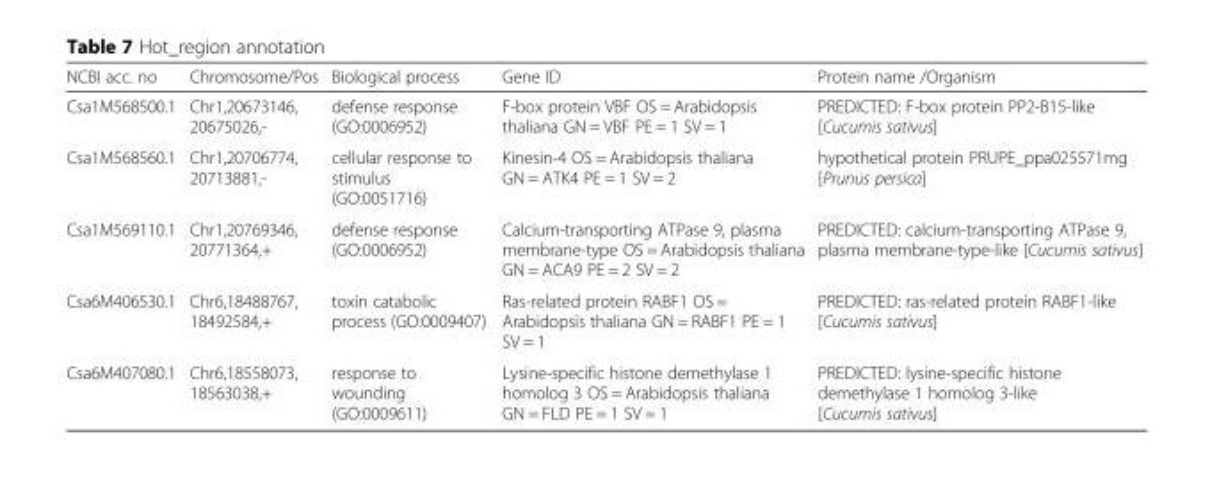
<table><thead><tr><td>NCBI acc. no</td><td>Chromosome/Pos</td><td>Biological process</td><td>Gene ID</td><td>Protein name /Organism</td></tr></thead><tbody><tr><td>Csa1M568500.1</td><td>Chr1,20673146, 20675026,-</td><td>defense response (GO:0006952)</td><td>F-box protein VBF OS = Arabidopsis thaliana GN = VBF PE = 1 SV = 1</td><td>PREDICTED: F-box protein PP2-B15-like [Cucumis sativus]</td></tr><tr><td>Csa1M568560.1</td><td>Chr1,20706774, 20713881,-</td><td>cellular response to stimulus (GO:0051716)</td><td>Kinesin-4 OS = Arabidopsis thaliana GN = ATK4 PE = 1 SV = 2</td><td>hypothetical protein PRUPE_ppa025571mg [Prunus persica]</td></tr><tr><td>Csa1M569110.1</td><td>Chr1,20769346, 20771364,+</td><td>defense response (GO:0006952)</td><td>Calcium-transporting ATPase 9, plasma membrane-type OS = Arabidopsis thaliana GN = ACA9 PE = 2 SV = 2</td><td>PREDICTED: calcium-transporting ATPase 9, plasma membrane-type-like [Cucumis sativus]</td></tr><tr><td>Csa6M406530.1</td><td>Chr6,18488767, 18492584,+</td><td>toxin catabolic process (GO:0009407)</td><td>Ras-related protein RABF1 OS = Arabidopsis thaliana GN = RABF1 PE = 1 SV = 1</td><td>PREDICTED: ras-related protein RABF1-like [Cucumis sativus]</td></tr><tr><td>Csa6M407080.1</td><td>Chr6,18558073, 18563038,+</td><td>response to wounding (GO:0009611)</td><td>Lysine-specific histone demethylase 1 homolog 3 OS = Arabidopsis thaliana GN = FLD PE = 1 SV = 1</td><td>PREDICTED: lysine-specific histone demethylase 1 homolog 3-like [Cucumis sativus]</td></tr></tbody></table>